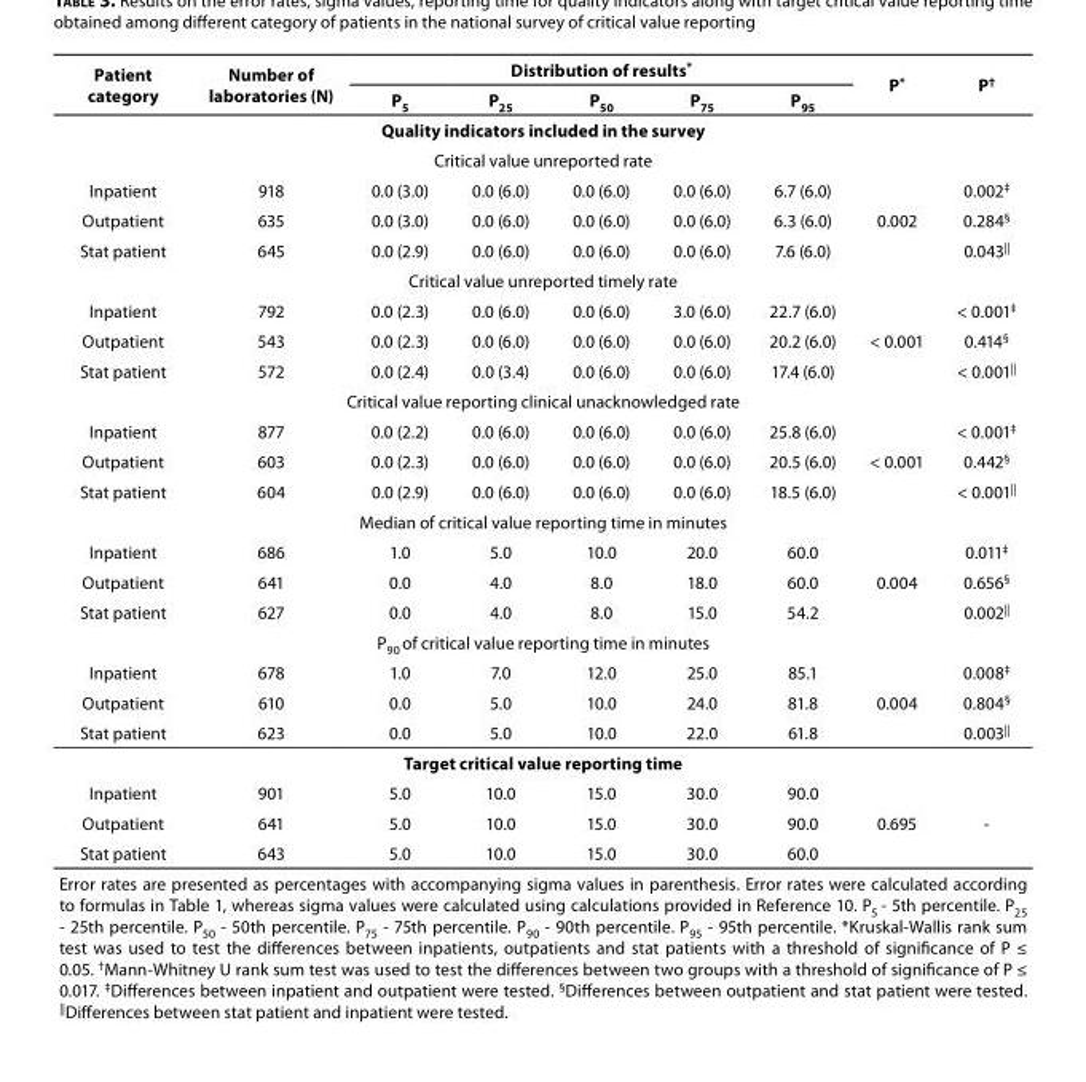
<table><thead><tr><td rowspan="2">Patient category</td><td rowspan="2">Number of laboratories (N)</td><td colspan="5">Distribution of results*</td><td rowspan="2">P*</td><td rowspan="2">P<sup>†</sup></td></tr><tr><td>P<sub>5</sub></td><td>P<sub>25</sub></td><td>P<sub>50</sub></td><td>P<sub>75</sub></td><td>P<sub>95</sub></td></tr></thead><tbody><tr><td colspan="9">Quality indicators included in the survey</td></tr><tr><td colspan="9">Critical value unreported rate</td></tr><tr><td>Inpatient</td><td>918</td><td>0.0 (3.0)</td><td>0.0 (6.0)</td><td>0.0 (6.0)</td><td>0.0 (6.0)</td><td>6.7 (6.0)</td><td rowspan="3">0.002</td><td>0.002<sup>‡</sup></td></tr><tr><td>Outpatient</td><td>635</td><td>0.0 (3.0)</td><td>0.0 (6.0)</td><td>0.0 (6.0)</td><td>0.0 (6.0)</td><td>6.3 (6.0)</td><td>0.284<sup>§</sup></td></tr><tr><td>Stat patient</td><td>645</td><td>0.0 (2.9)</td><td>0.0 (6.0)</td><td>0.0 (6.0)</td><td>0.0 (6.0)</td><td>7.6 (6.0)</td><td>0.043<sup>||</sup></td></tr><tr><td colspan="9">Critical value unreported timely rate</td></tr><tr><td>Inpatient</td><td>792</td><td>0.0 (2.3)</td><td>0.0 (6.0)</td><td>0.0 (6.0)</td><td>3.0 (6.0)</td><td>22.7 (6.0)</td><td rowspan="3">&lt; 0.001</td><td>&lt; 0.001<sup>‡</sup></td></tr><tr><td>Outpatient</td><td>543</td><td>0.0 (2.3)</td><td>0.0 (6.0)</td><td>0.0 (6.0)</td><td>0.0 (6.0)</td><td>20.2 (6.0)</td><td>0.414<sup>§</sup></td></tr><tr><td>Stat patient</td><td>572</td><td>0.0 (2.4)</td><td>0.0 (3.4)</td><td>0.0 (6.0)</td><td>0.0 (6.0)</td><td>17.4 (6.0)</td><td>&lt; 0.001<sup>||</sup></td></tr><tr><td colspan="9">Critical value reporting clinical unacknowledged rate</td></tr><tr><td>Inpatient</td><td>877</td><td>0.0 (2.2)</td><td>0.0 (6.0)</td><td>0.0 (6.0)</td><td>0.0 (6.0)</td><td>25.8 (6.0)</td><td rowspan="3">&lt; 0.001</td><td>&lt; 0.001<sup>‡</sup></td></tr><tr><td>Outpatient</td><td>603</td><td>0.0 (2.3)</td><td>0.0 (6.0)</td><td>0.0 (6.0)</td><td>0.0 (6.0)</td><td>20.5 (6.0)</td><td>0.442<sup>§</sup></td></tr><tr><td>Stat patient</td><td>604</td><td>0.0 (2.9)</td><td>0.0 (6.0)</td><td>0.0 (6.0)</td><td>0.0 (6.0)</td><td>18.5 (6.0)</td><td>&lt; 0.001<sup>||</sup></td></tr><tr><td colspan="9">Median of critical value reporting time in minutes</td></tr><tr><td>Inpatient</td><td>686</td><td>1.0</td><td>5.0</td><td>10.0</td><td>20.0</td><td>60.0</td><td rowspan="3">0.004</td><td>0.011<sup>‡</sup></td></tr><tr><td>Outpatient</td><td>641</td><td>0.0</td><td>4.0</td><td>8.0</td><td>18.0</td><td>60.0</td><td>0.656<sup>§</sup></td></tr><tr><td>Stat patient</td><td>627</td><td>0.0</td><td>4.0</td><td>8.0</td><td>15.0</td><td>54.2</td><td>0.002<sup>||</sup></td></tr><tr><td colspan="9">P<sub>90</sub> of critical value reporting time in minutes</td></tr><tr><td>Inpatient</td><td>678</td><td>1.0</td><td>7.0</td><td>12.0</td><td>25.0</td><td>85.1</td><td rowspan="3">0.004</td><td>0.008<sup>‡</sup></td></tr><tr><td>Outpatient</td><td>610</td><td>0.0</td><td>5.0</td><td>10.0</td><td>24.0</td><td>81.8</td><td>0.804<sup>§</sup></td></tr><tr><td>Stat patient</td><td>623</td><td>0.0</td><td>5.0</td><td>10.0</td><td>22.0</td><td>61.8</td><td>0.003<sup>||</sup></td></tr><tr><td colspan="9">Target critical value reporting time</td></tr><tr><td>Inpatient</td><td>901</td><td>5.0</td><td>10.0</td><td>15.0</td><td>30.0</td><td>90.0</td><td rowspan="3">0.695</td><td rowspan="3">-</td></tr><tr><td>Outpatient</td><td>641</td><td>5.0</td><td>10.0</td><td>15.0</td><td>30.0</td><td>90.0</td></tr><tr><td>Stat patient</td><td>643</td><td>5.0</td><td>10.0</td><td>15.0</td><td>30.0</td><td>60.0</td></tr><tr><td colspan="9">Error rates are presented as percentages with accompanying sigma values in parenthesis. Error rates were calculated according to formulas in Table 1, whereas sigma values were calculated using calculations provided in Reference 10. P<sub>5</sub> - 5th percentile. P<sub>25</sub> - 25th percentile. P<sub>50</sub> - 50th percentile. P<sub>75</sub> - 75th percentile. P<sub>90</sub> - 90th percentile. P<sub>95</sub> - 95th percentile. *Kruskal-Wallis rank sum test was used to test the differences between inpatients, outpatients and stat patients with a threshold of significance of P ≤ 0.05. <sup>†</sup>Mann-Whitney U rank sum test was used to test the differences between two groups with a threshold of significance of P ≤ 0.017. <sup>‡</sup>Differences between inpatient and outpatient were tested. <sup>§</sup>Differences between outpatient and stat patient were tested. <sup>||</sup>Differences between stat patient and inpatient were tested.</td></tr></tbody></table>